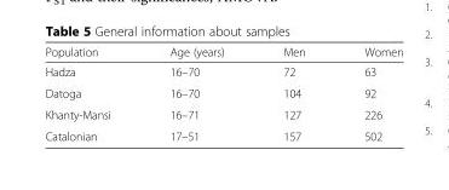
<table><thead><tr><td>Population</td><td>Age (years)</td><td>Men</td><td>Women</td></tr></thead><tbody><tr><td>Hadza</td><td>16–70</td><td>72</td><td>63</td></tr><tr><td>Datoga</td><td>16–70</td><td>104</td><td>92</td></tr><tr><td>Khanty-Mansi</td><td>16–71</td><td>127</td><td>226</td></tr><tr><td>Catalonian</td><td>17–51</td><td>157</td><td>502</td></tr></tbody></table>